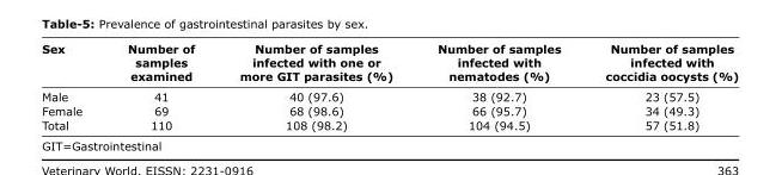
<table><thead><tr><td>Sex</td><td>Number of samples examined</td><td>Number of samples infected with one or more GIT parasites (%)</td><td>Number of samples infected with nematodes (%)</td><td>Number of samples infected with coccidia oocysts (%)</td></tr></thead><tbody><tr><td>Male</td><td>41</td><td>40 (97.6)</td><td>38 (92.7)</td><td>23 (57.5)</td></tr><tr><td>Female</td><td>69</td><td>68 (98.6)</td><td>66 (95.7)</td><td>34 (49.3)</td></tr><tr><td>Total</td><td>110</td><td>108 (98.2)</td><td>104 (94.5)</td><td>57 (51.8)</td></tr></tbody></table>